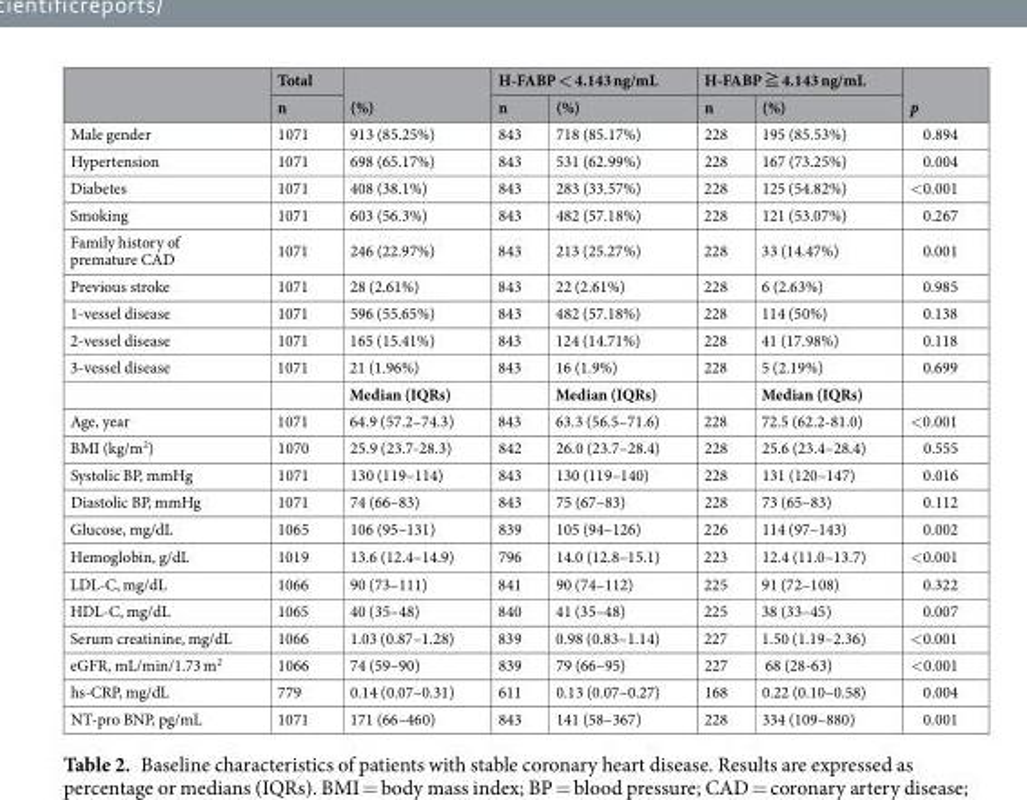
<table><thead><tr><td rowspan="2"></td><td rowspan="2">Total n</td><td rowspan="2">(%)</td><td colspan="2">H-FABP &lt; 4.143 ng/mL</td><td colspan="2">H-FABP ≧ 4.143 ng/mL</td><td rowspan="2">p</td></tr><tr><td>n</td><td>(%)</td><td>n</td><td>(%)</td></tr></thead><tbody><tr><td>Male gender</td><td>1071</td><td>913 (85.25%)</td><td>843</td><td>718 (85.17%)</td><td>228</td><td>195 (85.53%)</td><td>0.894</td></tr><tr><td>Hypertension</td><td>1071</td><td>698 (65.17%)</td><td>843</td><td>531 (62.99%)</td><td>228</td><td>167 (73.25%)</td><td>0.004</td></tr><tr><td>Diabetes</td><td>1071</td><td>408 (38.1%)</td><td>843</td><td>283 (33.57%)</td><td>228</td><td>125 (54.82%)</td><td>&lt;0.001</td></tr><tr><td>Smoking</td><td>1071</td><td>603 (56.3%)</td><td>843</td><td>482 (57.18%)</td><td>228</td><td>121 (53.07%)</td><td>0.267</td></tr><tr><td>Family history of premature CAD</td><td>1071</td><td>246 (22.97%)</td><td>843</td><td>213 (25.27%)</td><td>228</td><td>33 (14.47%)</td><td>0.001</td></tr><tr><td>Previous stroke</td><td>1071</td><td>28 (2.61%)</td><td>843</td><td>22 (2.61%)</td><td>228</td><td>6 (2.63%)</td><td>0.985</td></tr><tr><td>1-vessel disease</td><td>1071</td><td>596 (55.65%)</td><td>843</td><td>482 (57.18%)</td><td>228</td><td>114 (50%)</td><td>0.138</td></tr><tr><td>2-vessel disease</td><td>1071</td><td>165 (15.41%)</td><td>843</td><td>124 (14.71%)</td><td>228</td><td>41 (17.98%)</td><td>0.118</td></tr><tr><td rowspan="2">3-vessel disease</td><td>1071</td><td>21 (1.96%)</td><td>843</td><td>16 (1.9%)</td><td>228</td><td>5 (2.19%)</td><td>0.699</td></tr><tr><td></td><td>Median (IQRs)</td><td></td><td>Median (IQRs)</td><td></td><td>Median (IQRs)</td><td></td></tr><tr><td>Age, year</td><td>1071</td><td>64.9 (57.2–74.3)</td><td>843</td><td>63.3 (56.5–71.6)</td><td>228</td><td>72.5 (62.2-81.0)</td><td>&lt;0.001</td></tr><tr><td>BMI (kg/m<sup>2</sup>)</td><td>1070</td><td>25.9 (23.7-28.3)</td><td>842</td><td>26.0 (23.7–28.4)</td><td>228</td><td>25.6 (23.4–28.4)</td><td>0.555</td></tr><tr><td>Systolic BP, mmHg</td><td>1071</td><td>130 (119–114)</td><td>843</td><td>130 (119–140)</td><td>228</td><td>131 (120–147)</td><td>0.016</td></tr><tr><td>Diastolic BP, mmHg</td><td>1071</td><td>74 (66–83)</td><td>843</td><td>75 (67–83)</td><td>228</td><td>73 (65–83)</td><td>0.112</td></tr><tr><td>Glucose, mg/dL</td><td>1065</td><td>106 (95–131)</td><td>839</td><td>105 (94–126)</td><td>226</td><td>114 (97–143)</td><td>0.002</td></tr><tr><td>Hemoglobin, g/dL</td><td>1019</td><td>13.6 (12.4–14.9)</td><td>796</td><td>14.0 (12.8–15.1)</td><td>223</td><td>12.4 (11.0–13.7)</td><td>&lt;0.001</td></tr><tr><td>LDL-C, mg/dL</td><td>1066</td><td>90 (73–111)</td><td>841</td><td>90 (74–112)</td><td>225</td><td>91 (72–108)</td><td>0.322</td></tr><tr><td>HDL-C, mg/dL</td><td>1065</td><td>40 (35–48)</td><td>840</td><td>41 (35–48)</td><td>225</td><td>38 (33–45)</td><td>0.007</td></tr><tr><td>Serum creatinine, mg/dL</td><td>1066</td><td>1.03 (0.87–1.28)</td><td>839</td><td>0.98 (0.83–1.14)</td><td>227</td><td>1.50 (1.19–2.36)</td><td>&lt;0.001</td></tr><tr><td>eGFR, mL/min/1.73 m<sup>2</sup></td><td>1066</td><td>74 (59–90)</td><td>839</td><td>79 (66–95)</td><td>227</td><td>68 (28-63)</td><td>&lt;0.001</td></tr><tr><td>hs-CRP, mg/dL</td><td>779</td><td>0.14 (0.07–0.31)</td><td>611</td><td>0.13 (0.07–0.27)</td><td>168</td><td>0.22 (0.10–0.58)</td><td>0.004</td></tr><tr><td>NT-pro BNP, pg/mL</td><td>1071</td><td>171 (66–460)</td><td>843</td><td>141 (58–367)</td><td>228</td><td>334 (109–880)</td><td>0.001</td></tr></tbody></table>